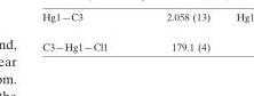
<table><tbody><tr><td>C3—Hg1—Cl1</td><td>179.1 (4)</td></tr></tbody></table>